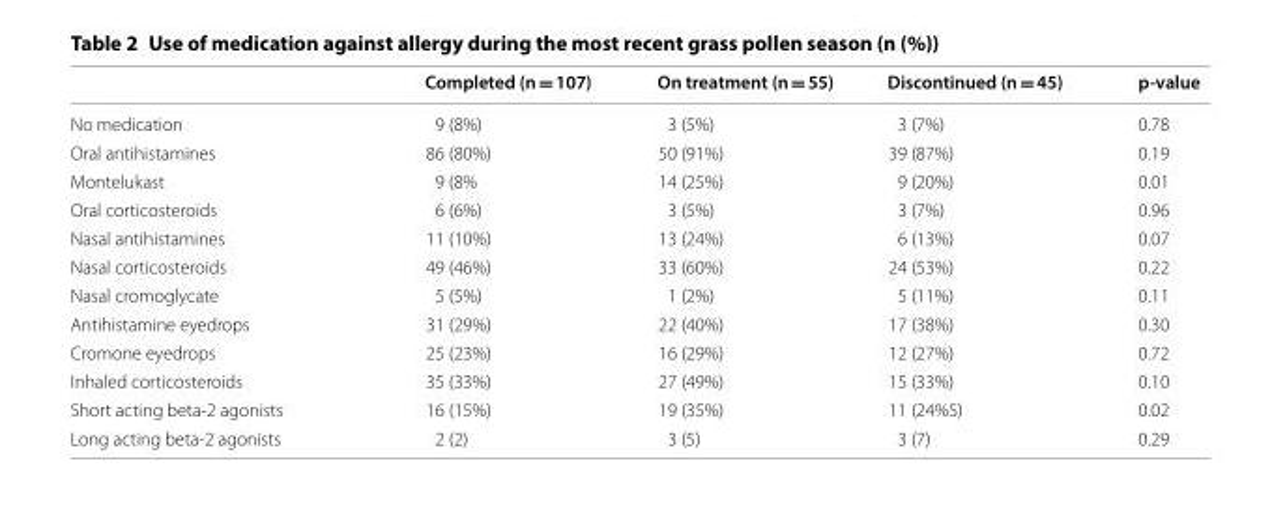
<table><thead><tr><td></td><td>Completed (n = 107)</td><td>On treatment (n = 55)</td><td>Discontinued (n = 45)</td><td>p-value</td></tr></thead><tbody><tr><td>No medication</td><td>9 (8%)</td><td>3 (5%)</td><td>3 (7%)</td><td>0.78</td></tr><tr><td>Oral antihistamines</td><td>86 (80%)</td><td>50 (91%)</td><td>39 (87%)</td><td>0.19</td></tr><tr><td>Montelukast</td><td>9 (8%</td><td>14 (25%)</td><td>9 (20%)</td><td>0.01</td></tr><tr><td>Oral corticosteroids</td><td>6 (6%)</td><td>3 (5%)</td><td>3 (7%)</td><td>0.96</td></tr><tr><td>Nasal antihistamines</td><td>11 (10%)</td><td>13 (24%)</td><td>6 (13%)</td><td>0.07</td></tr><tr><td>Nasal corticosteroids</td><td>49 (46%)</td><td>33 (60%)</td><td>24 (53%)</td><td>0.22</td></tr><tr><td>Nasal cromoglycate</td><td>5 (5%)</td><td>1 (2%)</td><td>5 (11%)</td><td>0.11</td></tr><tr><td>Antihistamine eyedrops</td><td>31 (29%)</td><td>22 (40%)</td><td>17 (38%)</td><td>0.30</td></tr><tr><td>Cromone eyedrops</td><td>25 (23%)</td><td>16 (29%)</td><td>12 (27%)</td><td>0.72</td></tr><tr><td>Inhaled corticosteroids</td><td>35 (33%)</td><td>27 (49%)</td><td>15 (33%)</td><td>0.10</td></tr><tr><td>Short acting beta-2 agonists</td><td>16 (15%)</td><td>19 (35%)</td><td>11 (24%S)</td><td>0.02</td></tr><tr><td>Long acting beta-2 agonists</td><td>2 (2)</td><td>3 (5)</td><td>3 (7)</td><td>0.29</td></tr></tbody></table>